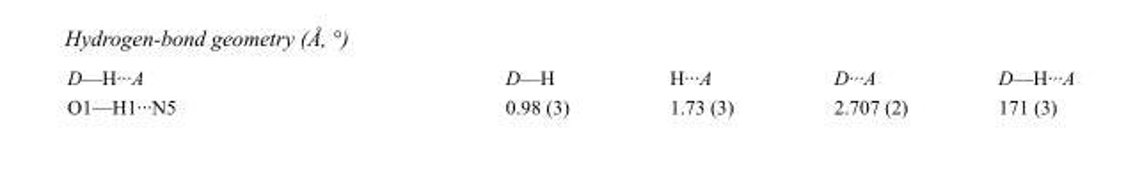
<table><tbody><tr><td>D—H···A</td><td>D—H</td><td>H···A</td><td>D···A</td><td>D—H···A</td></tr><tr><td>O1—H1···N5</td><td>0.98 (3)</td><td>1.73 (3)</td><td>2.707 (2)</td><td>171 (3)</td></tr></tbody></table>